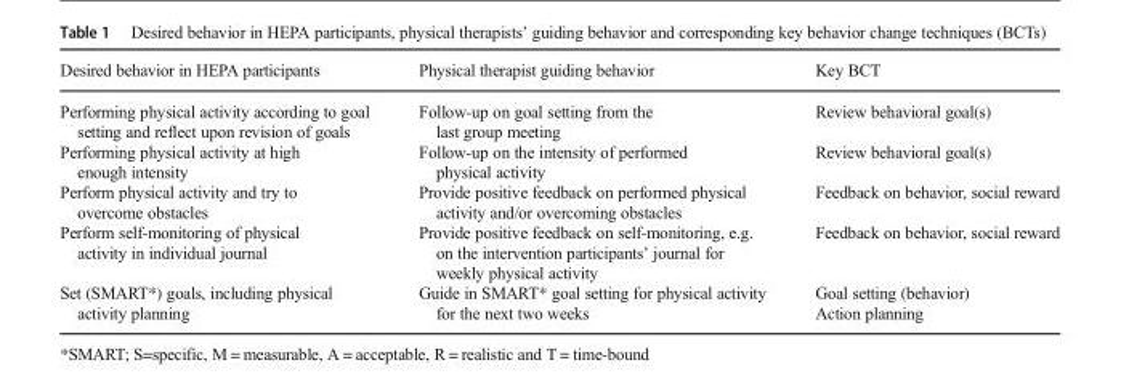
<table><thead><tr><td>Desired behavior in HEPA participants</td><td>Physical therapist guiding behavior</td><td>Key BCT</td></tr></thead><tbody><tr><td>Performing physical activity according to goal setting and reflect upon revision of goals</td><td>Follow-up on goal setting from the last group meeting</td><td>Review behavioral goal(s)</td></tr><tr><td>Performing physical activity at high enough intensity</td><td>Follow-up on the intensity of performed physical activity</td><td>Review behavioral goal(s)</td></tr><tr><td>Perform physical activity and try to overcome obstacles</td><td>Provide positive feedback on performed physical activity and/or overcoming obstacles</td><td>Feedback on behavior, social reward</td></tr><tr><td>Perform self-monitoring of physical activity in individual journal</td><td>Provide positive feedback on self-monitoring, e.g. on the intervention participants’ journal for weekly physical activity</td><td>Feedback on behavior, social reward</td></tr><tr><td>Set (SMART*) goals, including physical activity planning</td><td>Guide in SMART* goal setting for physical activity for the next two weeks</td><td>Goal setting (behavior) Action planning</td></tr></tbody></table>